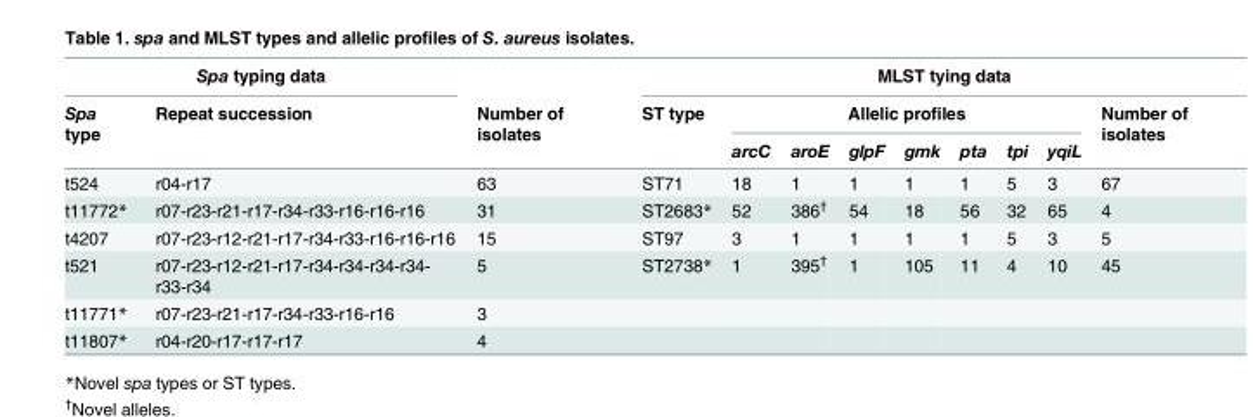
<table><thead><tr><td colspan="2">Spa typing data</td><td rowspan="3">Number of isolates</td><td colspan="9">MLST tying data</td></tr><tr><td rowspan="2">Spa type</td><td rowspan="2">Repeat succession</td><td rowspan="2">ST type</td><td colspan="7">Allelic profiles</td><td rowspan="2">Number of isolates</td></tr><tr><td>arcC</td><td>aroE</td><td>glpF</td><td>gmk</td><td>pta</td><td>tpi</td><td>yqiL</td></tr></thead><tbody><tr><td>t524</td><td>r04-r17</td><td>63</td><td>ST71</td><td>18</td><td>1</td><td>1</td><td>1</td><td>1</td><td>5</td><td>3</td><td>67</td></tr><tr><td>t11772*</td><td>r07-r23-r21-r17-r34-r33-r16-r16-r16</td><td>31</td><td>ST2683*</td><td>52</td><td>386<sup>†</sup></td><td>54</td><td>18</td><td>56</td><td>32</td><td>65</td><td>4</td></tr><tr><td>t4207</td><td>r07-r23-r12-r21-r17-r34-r33-r16-r16-r16</td><td>15</td><td>ST97</td><td>3</td><td>1</td><td>1</td><td>1</td><td>1</td><td>5</td><td>3</td><td>5</td></tr><tr><td>t521</td><td>r07-r23-r12-r21-r17-r34-r34-r34-r34- r33-r34</td><td>5</td><td>ST2738*</td><td>1</td><td>395<sup>†</sup></td><td>1</td><td>105</td><td>11</td><td>4</td><td>10</td><td>45</td></tr><tr><td>t11771*</td><td>r07-r23-r21-r17-r34-r33-r16-r16</td><td>3</td><td></td><td></td><td></td><td></td><td></td><td></td><td></td><td></td><td></td></tr><tr><td>t11807*</td><td>r04-r20-r17-r17-r17</td><td>4</td><td></td><td></td><td></td><td></td><td></td><td></td><td></td><td></td><td></td></tr></tbody></table>